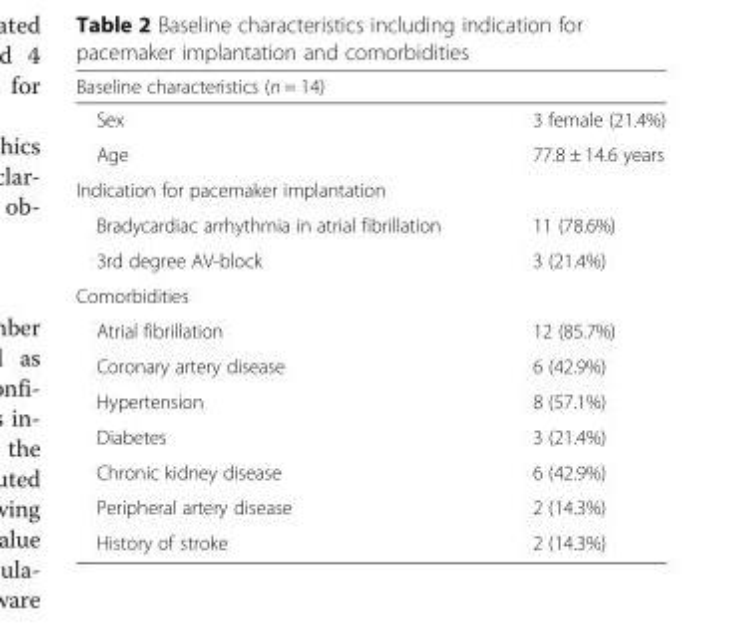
<table><thead><tr><td colspan="2">Baseline characteristics (n = 14)</td></tr><tr><td>Sex</td><td>3 female (21.4%)</td></tr></thead><tbody><tr><td>Age</td><td>77.8 ± 14.6 years</td></tr><tr><td colspan="2">Indication for pacemaker implantation</td></tr><tr><td>Bradycardiac arrhythmia in atrial fibrillation</td><td>11 (78.6%)</td></tr><tr><td>3rd degree AV-block</td><td>3 (21.4%)</td></tr><tr><td colspan="2">Comorbidities</td></tr><tr><td>Atrial fibrillation</td><td>12 (85.7%)</td></tr><tr><td>Coronary artery disease</td><td>6 (42.9%)</td></tr><tr><td>Hypertension</td><td>8 (57.1%)</td></tr><tr><td>Diabetes</td><td>3 (21.4%)</td></tr><tr><td>Chronic kidney disease</td><td>6 (42.9%)</td></tr><tr><td>Peripheral artery disease</td><td>2 (14.3%)</td></tr><tr><td>History of stroke</td><td>2 (14.3%)</td></tr></tbody></table>